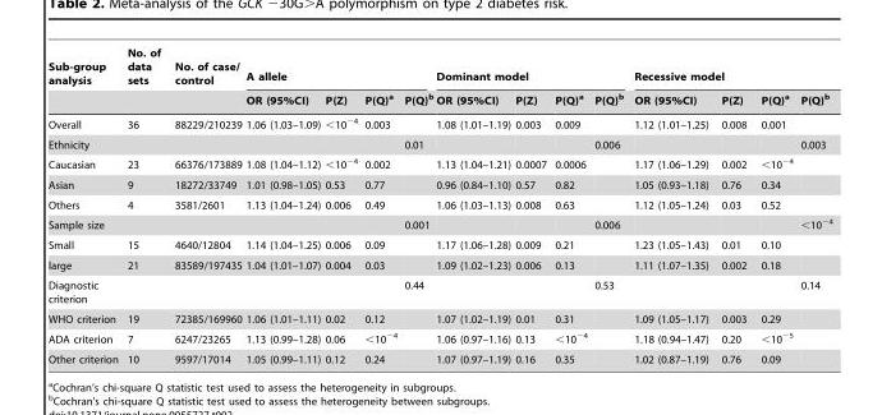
<table><thead><tr><td rowspan="2">Sub-group analysis</td><td rowspan="2">No. of data sets</td><td rowspan="2">No. of case/ control</td><td colspan="4">A allele</td><td colspan="4">Dominant model</td><td colspan="4">Recessive model</td></tr><tr><td>OR (95%CI)</td><td>P(Z)</td><td>P(Q)a</td><td>P(Q)b</td><td>OR (95%CI)</td><td>P(Z)</td><td>P(Q)a</td><td>P(Q)b</td><td>OR (95%CI)</td><td>P(Z)</td><td>P(Q)a</td><td>P(Q)b</td></tr></thead><tbody><tr><td>Overall</td><td>36</td><td>88229/210239</td><td>1.06 (1.03–1.09)</td><td>&lt;10−4</td><td>0.003</td><td></td><td>1.08 (1.01–1.19)</td><td>0.003</td><td>0.009</td><td></td><td>1.12 (1.01–1.25)</td><td>0.008</td><td>0.001</td><td></td></tr><tr><td>Ethnicity</td><td></td><td></td><td></td><td></td><td></td><td>0.01</td><td></td><td></td><td></td><td>0.006</td><td></td><td></td><td></td><td>0.003</td></tr><tr><td>Caucasian</td><td>23</td><td>66376/173889</td><td>1.08 (1.04–1.12)</td><td>&lt;10−4</td><td>0.002</td><td></td><td>1.13 (1.04–1.21)</td><td>0.0007</td><td>0.0006</td><td></td><td>1.17 (1.06–1.29)</td><td>0.002</td><td>&lt;10−4</td><td></td></tr><tr><td>Asian</td><td>9</td><td>18272/33749</td><td>1.01 (0.98–1.05)</td><td>0.53</td><td>0.77</td><td></td><td>0.96 (0.84–1.10)</td><td>0.57</td><td>0.82</td><td></td><td>1.05 (0.93–1.18)</td><td>0.76</td><td>0.34</td><td></td></tr><tr><td>Others</td><td>4</td><td>3581/2601</td><td>1.13 (1.04–1.24)</td><td>0.006</td><td>0.49</td><td></td><td>1.06 (1.03–1.13)</td><td>0.008</td><td>0.63</td><td></td><td>1.12 (1.05–1.24)</td><td>0.03</td><td>0.52</td><td></td></tr><tr><td>Sample size</td><td></td><td></td><td></td><td></td><td></td><td>0.001</td><td></td><td></td><td></td><td>0.006</td><td></td><td></td><td></td><td>&lt;10−4</td></tr><tr><td>Small</td><td>15</td><td>4640/12804</td><td>1.14 (1.04–1.25)</td><td>0.006</td><td>0.09</td><td></td><td>1.17 (1.06–1.28)</td><td>0.009</td><td>0.21</td><td></td><td>1.23 (1.05–1.43)</td><td>0.01</td><td>0.10</td><td></td></tr><tr><td>large</td><td>21</td><td>83589/197435</td><td>1.04 (1.01–1.07)</td><td>0.004</td><td>0.03</td><td></td><td>1.09 (1.02–1.23)</td><td>0.006</td><td>0.13</td><td></td><td>1.11 (1.07–1.35)</td><td>0.002</td><td>0.18</td><td></td></tr><tr><td>Diagnostic criterion</td><td></td><td></td><td></td><td></td><td></td><td>0.44</td><td></td><td></td><td></td><td>0.53</td><td></td><td></td><td></td><td>0.14</td></tr><tr><td>WHO criterion</td><td>19</td><td>72385/169960</td><td>1.06 (1.01–1.11)</td><td>0.02</td><td>0.12</td><td></td><td>1.07 (1.02–1.19)</td><td>0.01</td><td>0.31</td><td></td><td>1.09 (1.05–1.17)</td><td>0.003</td><td>0.29</td><td></td></tr><tr><td>ADA criterion</td><td>7</td><td>6247/23265</td><td>1.13 (0.99–1.28)</td><td>0.06</td><td>&lt;10−4</td><td></td><td>1.06 (0.97–1.16)</td><td>0.13</td><td>&lt;10−4</td><td></td><td>1.18 (0.94–1.47)</td><td>0.20</td><td>&lt;10−5</td><td></td></tr><tr><td>Other criterion</td><td>10</td><td>9597/17014</td><td>1.05 (0.99–1.11)</td><td>0.12</td><td>0.24</td><td></td><td>1.07 (0.97–1.19)</td><td>0.16</td><td>0.35</td><td></td><td>1.02 (0.87–1.19)</td><td>0.76</td><td>0.09</td><td></td></tr></tbody></table>